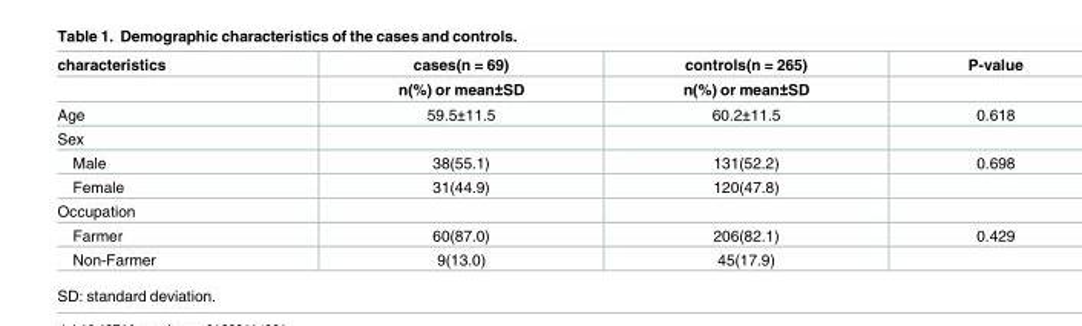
<table><thead><tr><td rowspan="2">characteristics</td><td rowspan="2">cases(n = 69) n(%) or mean±SD</td><td rowspan="2">controls(n = 265) n(%) or mean±SD</td><td rowspan="2">P-value</td></tr><tr></tr></thead><tbody><tr><td>Age</td><td>59.5±11.5</td><td>60.2±11.5</td><td>0.618</td></tr><tr><td colspan="4">Sex</td></tr><tr><td>Male</td><td>38(55.1)</td><td>131(52.2)</td><td>0.698</td></tr><tr><td>Female</td><td>31(44.9)</td><td>120(47.8)</td><td></td></tr><tr><td colspan="4">Occupation</td></tr><tr><td>Farmer</td><td>60(87.0)</td><td>206(82.1)</td><td>0.429</td></tr><tr><td>Non-Farmer</td><td>9(13.0)</td><td>45(17.9)</td><td></td></tr></tbody></table>